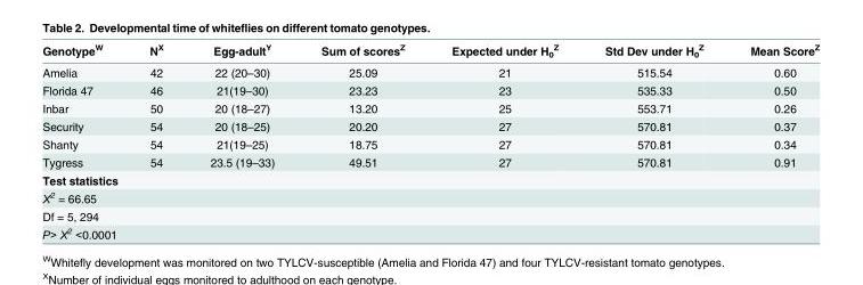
<table><thead><tr><td>Genotype<sup>W</sup></td><td>N<sup>X</sup></td><td>Egg-adult<sup>Y</sup></td><td>Sum of scores<sup>Z</sup></td><td>Expected under H<sub>0</sub> <sup>Z</sup></td><td>Std Dev under H<sub>0</sub> <sup>Z</sup></td><td>Mean Score<sup>Z</sup></td></tr></thead><tbody><tr><td>Amelia</td><td>42</td><td>22 (20–30)</td><td>25.09</td><td>21</td><td>515.54</td><td>0.60</td></tr><tr><td>Florida 47</td><td>46</td><td>21(19–30)</td><td>23.23</td><td>23</td><td>535.33</td><td>0.50</td></tr><tr><td>Inbar</td><td>50</td><td>20 (18–27)</td><td>13.20</td><td>25</td><td>553.71</td><td>0.26</td></tr><tr><td>Security</td><td>54</td><td>20 (18–25)</td><td>20.20</td><td>27</td><td>570.81</td><td>0.37</td></tr><tr><td>Shanty</td><td>54</td><td>21(19–25)</td><td>18.75</td><td>27</td><td>570.81</td><td>0.34</td></tr><tr><td>Tygress</td><td>54</td><td>23.5 (19–33)</td><td>49.51</td><td>27</td><td>570.81</td><td>0.91</td></tr><tr><td colspan="7">Test statistics</td></tr><tr><td colspan="7">Χ<sup>2</sup> = 66.65</td></tr><tr><td colspan="7">Df = 5, 294</td></tr><tr><td colspan="7">P&gt; Χ<sup>2</sup> &lt;0.0001</td></tr></tbody></table>